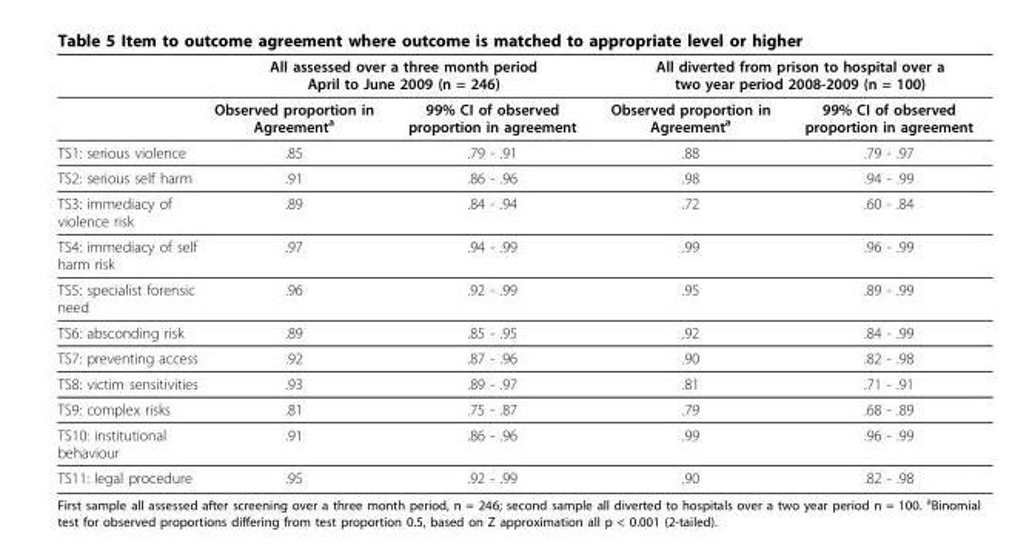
<table><thead><tr><td rowspan="2"></td><td colspan="2">All assessed over a three month period April to June 2009 (n = 246)</td><td colspan="2">All diverted from prison to hospital over a two year period 2008-2009 (n = 100)</td></tr><tr><td>Observed proportion in Agreement<sup>a</sup></td><td>99% CI of observed proportion in agreement</td><td>Observed proportion in Agreement<sup>a</sup></td><td>99% CI of observed proportion in agreement</td></tr></thead><tbody><tr><td>TS1: serious violence</td><td>.85</td><td>.79 - .91</td><td>.88</td><td>.79 - .97</td></tr><tr><td>TS2: serious self harm</td><td>.91</td><td>.86 - .96</td><td>.98</td><td>.94 - .99</td></tr><tr><td>TS3: immediacy of violence risk</td><td>.89</td><td>.84 - .94</td><td>.72</td><td>.60 - .84</td></tr><tr><td>TS4: immediacy of self harm risk</td><td>.97</td><td>.94 - .99</td><td>.99</td><td>.96 - .99</td></tr><tr><td>TS5: specialist forensic need</td><td>.96</td><td>.92 - .99</td><td>.95</td><td>.89 - .99</td></tr><tr><td>TS6: absconding risk</td><td>.89</td><td>.85 - .95</td><td>.92</td><td>.84 - .99</td></tr><tr><td>TS7: preventing access</td><td>.92</td><td>.87 - .96</td><td>.90</td><td>.82 - .98</td></tr><tr><td>TS8: victim sensitivities</td><td>.93</td><td>.89 - .97</td><td>.81</td><td>.71 - .91</td></tr><tr><td>TS9: complex risks</td><td>.81</td><td>.75 - .87</td><td>.79</td><td>.68 - .89</td></tr><tr><td>TS10: institutional behaviour</td><td>.91</td><td>.86 - .96</td><td>.99</td><td>.96 - .99</td></tr><tr><td>TS11: legal procedure</td><td>.95</td><td>.92 - .99</td><td>.90</td><td>.82 - .98</td></tr></tbody></table>